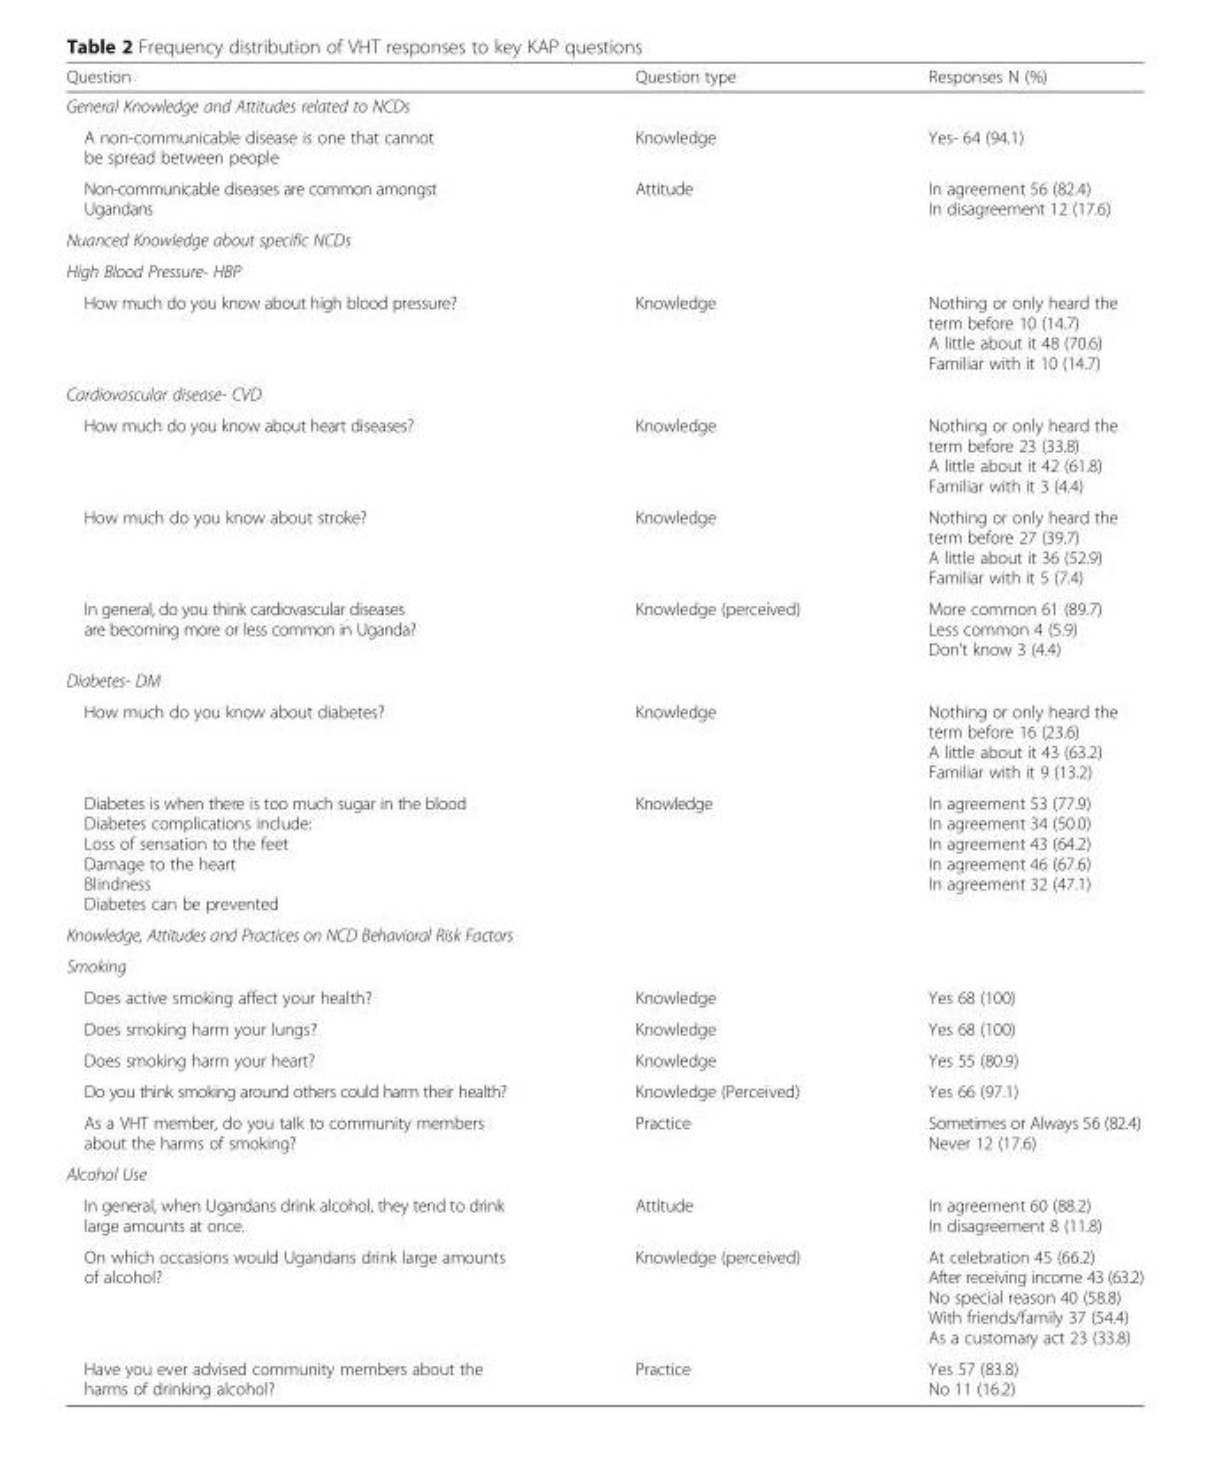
<table><thead><tr><td>Question</td><td>Question type</td><td>Responses N (%)</td></tr></thead><tbody><tr><td colspan="3">General Knowledge and Attitudes related to NCDs</td></tr><tr><td>A non-communicable disease is one that cannot be spread between people</td><td>Knowledge</td><td>Yes- 64 (94.1)</td></tr><tr><td>Non-communicable diseases are common amongst Ugandans</td><td>Attitude</td><td>In agreement 56 (82.4) In disagreement 12 (17.6)</td></tr><tr><td colspan="3">Nuanced Knowledge about specific NCDs</td></tr><tr><td colspan="3">High Blood Pressure- HBP</td></tr><tr><td>How much do you know about high blood pressure?</td><td>Knowledge</td><td>Nothing or only heard the term before 10 (14.7) A little about it 48 (70.6) Familiar with it 10 (14.7)</td></tr><tr><td colspan="3">Cardiovascular disease- CVD</td></tr><tr><td>How much do you know about heart diseases?</td><td>Knowledge</td><td>Nothing or only heard the term before 23 (33.8) A little about it 42 (61.8) Familiar with it 3 (4.4)</td></tr><tr><td>How much do you know about stroke?</td><td>Knowledge</td><td>Nothing or only heard the term before 27 (39.7) A little about it 36 (52.9) Familiar with it 5 (7.4)</td></tr><tr><td>In general, do you think cardiovascular diseases are becoming more or less common in Uganda?</td><td>Knowledge (perceived)</td><td>More common 61 (89.7) Less common 4 (5.9) Don’t know 3 (4.4)</td></tr><tr><td colspan="3">Diabetes- DM</td></tr><tr><td>How much do you know about diabetes?</td><td>Knowledge</td><td>Nothing or only heard the term before 16 (23.6) A little about it 43 (63.2) Familiar with it 9 (13.2)</td></tr><tr><td>Diabetes is when there is too much sugar in the blood Diabetes complications include: Loss of sensation to the feet Damage to the heart Blindness Diabetes can be prevented</td><td>Knowledge</td><td>In agreement 53 (77.9) In agreement 34 (50.0) In agreement 43 (64.2) In agreement 46 (67.6) In agreement 32 (47.1)</td></tr><tr><td colspan="3">Knowledge, Attitudes and Practices on NCD Behavioral Risk Factors</td></tr><tr><td colspan="3">Smoking</td></tr><tr><td>Does active smoking affect your health?</td><td>Knowledge</td><td>Yes 68 (100)</td></tr><tr><td>Does smoking harm your lungs?</td><td>Knowledge</td><td>Yes 68 (100)</td></tr><tr><td>Does smoking harm your heart?</td><td>Knowledge</td><td>Yes 55 (80.9)</td></tr><tr><td>Do you think smoking around others could harm their health?</td><td>Knowledge (Perceived)</td><td>Yes 66 (97.1)</td></tr><tr><td>As a VHT member, do you talk to community members about the harms of smoking?</td><td>Practice</td><td>Sometimes or Always 56 (82.4) Never 12 (17.6)</td></tr><tr><td colspan="3">Alcohol Use</td></tr><tr><td>In general, when Ugandans drink alcohol, they tend to drink large amounts at once.</td><td>Attitude</td><td>In agreement 60 (88.2) In disagreement 8 (11.8)</td></tr><tr><td>On which occasions would Ugandans drink large amounts of alcohol?</td><td>Knowledge (perceived)</td><td>At celebration 45 (66.2) After receiving income 43 (63.2) No special reason 40 (58.8) With friends/family 37 (54.4) As a customary act 23 (33.8)</td></tr><tr><td>Have you ever advised community members about the harms of drinking alcohol?</td><td>Practice</td><td>Yes 57 (83.8) No 11 (16.2)</td></tr></tbody></table>